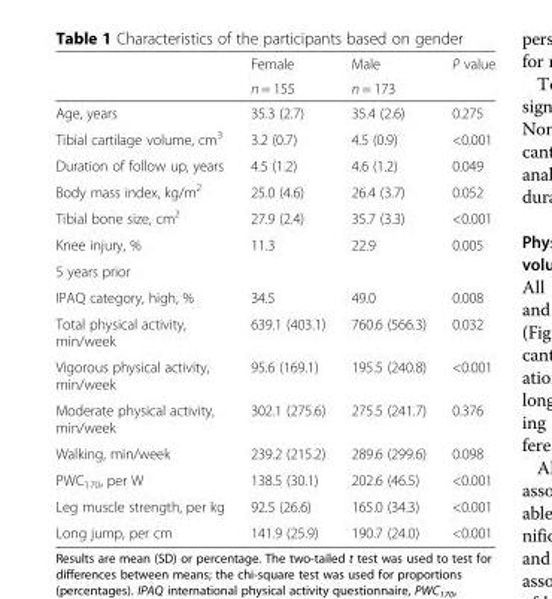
<table><thead><tr><td rowspan="2"></td><td rowspan="2">Female n = 155</td><td rowspan="2">Male n = 173</td><td rowspan="2">P value</td></tr><tr></tr></thead><tbody><tr><td>Age, years</td><td>35.3 (2.7)</td><td>35.4 (2.6)</td><td>0.275</td></tr><tr><td>Tibial cartilage volume, cm<sup>3</sup></td><td>3.2 (0.7)</td><td>4.5 (0.9)</td><td>&lt;0.001</td></tr><tr><td>Duration of follow up, years</td><td>4.5 (1.2)</td><td>4.6 (1.2)</td><td>0.049</td></tr><tr><td>Body mass index, kg/m<sup>2</sup></td><td>25.0 (4.6)</td><td>26.4 (3.7)</td><td>0.052</td></tr><tr><td>Tibial bone size, cm<sup>2</sup></td><td>27.9 (2.4)</td><td>35.7 (3.3)</td><td>&lt;0.001</td></tr><tr><td>Knee injury, %</td><td>11.3</td><td>22.9</td><td>0.005</td></tr><tr><td colspan="4">5 years prior</td></tr><tr><td>IPAQ category, high, %</td><td>34.5</td><td>49.0</td><td>0.008</td></tr><tr><td>Total physical activity, min/week</td><td>639.1 (403.1)</td><td>760.6 (566.3)</td><td>0.032</td></tr><tr><td>Vigorous physical activity, min/week</td><td>95.6 (169.1)</td><td>195.5 (240.8)</td><td>&lt;0.001</td></tr><tr><td>Moderate physical activity, min/week</td><td>302.1 (275.6)</td><td>275.5 (241.7)</td><td>0.376</td></tr><tr><td>Walking, min/week</td><td>239.2 (215.2)</td><td>289.6 (299.6)</td><td>0.098</td></tr><tr><td>PWC<sub>170</sub>, per W</td><td>138.5 (30.1)</td><td>202.6 (46.5)</td><td>&lt;0.001</td></tr><tr><td>Leg muscle strength, per kg</td><td>92.5 (26.6)</td><td>165.0 (34.3)</td><td>&lt;0.001</td></tr><tr><td>Long jump, per cm</td><td>141.9 (25.9)</td><td>190.7 (24.0)</td><td>&lt;0.001</td></tr></tbody></table>